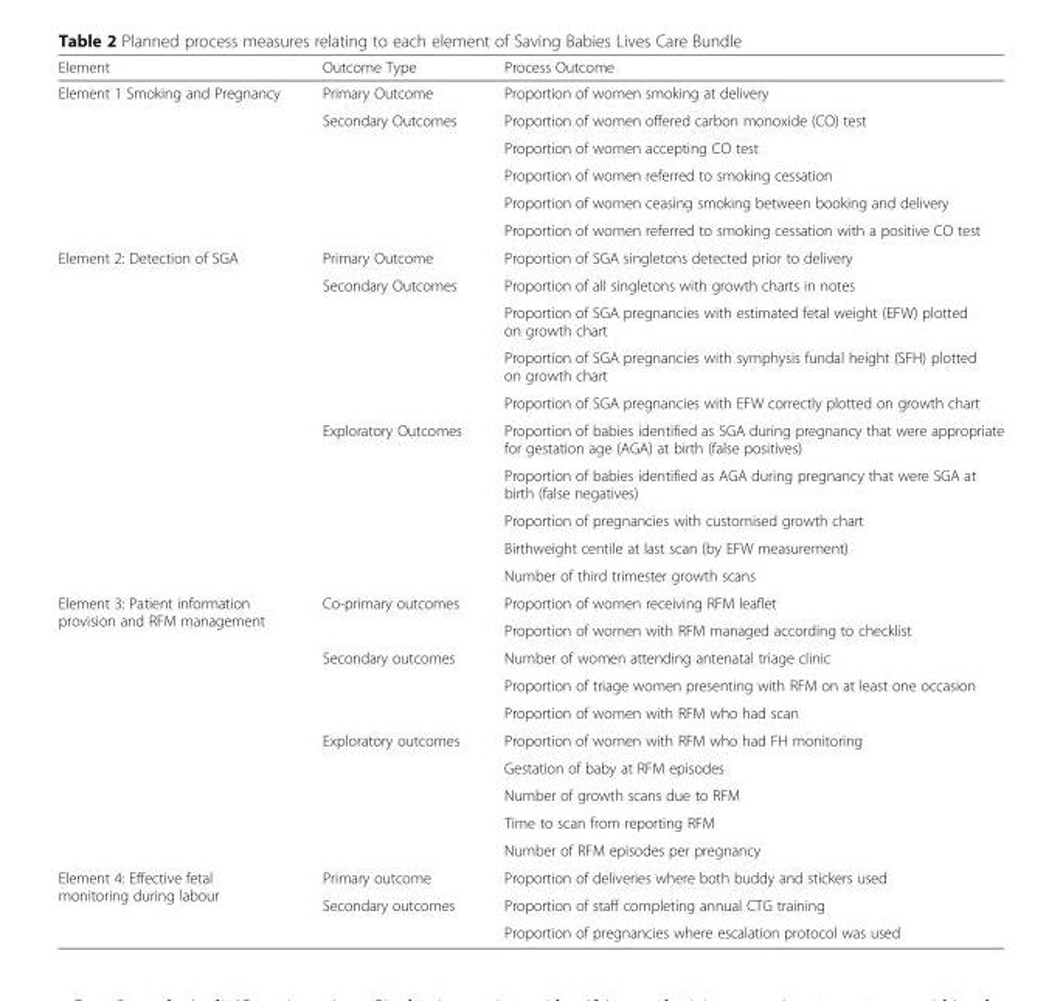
<table><thead><tr><td>Element</td><td>Outcome Type</td><td>Process Outcome</td></tr></thead><tbody><tr><td rowspan="6">Element 1 Smoking and Pregnancy</td><td>Primary Outcome</td><td>Proportion of women smoking at delivery</td></tr><tr><td rowspan="5">Secondary Outcomes</td><td>Proportion of women offered carbon monoxide (CO) test</td></tr><tr><td>Proportion of women accepting CO test</td></tr><tr><td>Proportion of women referred to smoking cessation</td></tr><tr><td>Proportion of women ceasing smoking between booking and delivery</td></tr><tr><td>Proportion of women referred to smoking cessation with a positive CO test</td></tr><tr><td rowspan="10">Element 2: Detection of SGA</td><td>Primary Outcome</td><td>Proportion of SGA singletons detected prior to delivery</td></tr><tr><td rowspan="4">Secondary Outcomes</td><td>Proportion of all singletons with growth charts in notes</td></tr><tr><td>Proportion of SGA pregnancies with estimated fetal weight (EFW) plotted on growth chart</td></tr><tr><td>Proportion of SGA pregnancies with symphysis fundal height (SFH) plotted on growth chart</td></tr><tr><td>Proportion of SGA pregnancies with EFW correctly plotted on growth chart</td></tr><tr><td rowspan="5">Exploratory Outcomes</td><td>Proportion of babies identified as SGA during pregnancy that were appropriate for gestation age (AGA) at birth (false positives)</td></tr><tr><td>Proportion of babies identified as AGA during pregnancy that were SGA at birth (false negatives)</td></tr><tr><td>Proportion of pregnancies with customised growth chart</td></tr><tr><td>Birthweight centile at last scan (by EFW measurement)</td></tr><tr><td>Number of third trimester growth scans</td></tr><tr><td rowspan="10">Element 3: Patient information provision and RFM management</td><td rowspan="2">Co-primary outcomes</td><td>Proportion of women receiving RFM leaflet</td></tr><tr><td>Proportion of women with RFM managed according to checklist</td></tr><tr><td rowspan="3">Secondary outcomes</td><td>Number of women attending antenatal triage clinic</td></tr><tr><td>Proportion of triage women presenting with RFM on at least one occasion</td></tr><tr><td>Proportion of women with RFM who had scan</td></tr><tr><td rowspan="5">Exploratory outcomes</td><td>Proportion of women with RFM who had FH monitoring</td></tr><tr><td>Gestation of baby at RFM episodes</td></tr><tr><td>Number of growth scans due to RFM</td></tr><tr><td>Time to scan from reporting RFM</td></tr><tr><td>Number of RFM episodes per pregnancy</td></tr><tr><td rowspan="3">Element 4: Effective fetal monitoring during labour</td><td>Primary outcome</td><td>Proportion of deliveries where both buddy and stickers used</td></tr><tr><td rowspan="2">Secondary outcomes</td><td>Proportion of staff completing annual CTG training</td></tr><tr><td>Proportion of pregnancies where escalation protocol was used</td></tr></tbody></table>